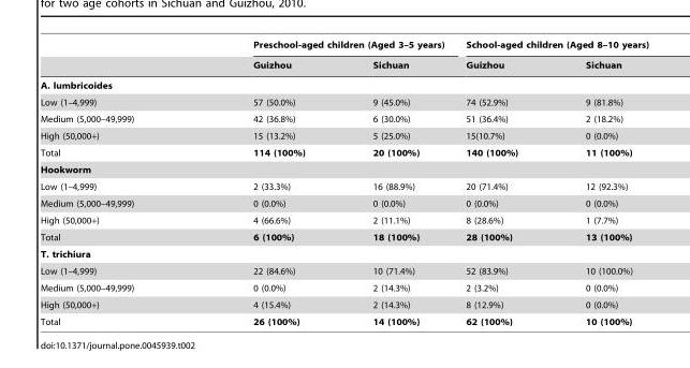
<table><thead><tr><td rowspan="2"></td><td colspan="2">Preschool-aged children (Aged 3–5 years)</td><td colspan="2">School-aged children (Aged 8–10 years)</td></tr><tr><td>Guizhou</td><td>Sichuan</td><td>Guizhou</td><td>Sichuan</td></tr></thead><tbody><tr><td colspan="5">A. lumbricoides</td></tr><tr><td>Low (1–4,999)</td><td>57 (50.0%)</td><td>9 (45.0%)</td><td>74 (52.9%)</td><td>9 (81.8%)</td></tr><tr><td>Medium (5,000–49,999)</td><td>42 (36.8%)</td><td>6 (30.0%)</td><td>51 (36.4%)</td><td>2 (18.2%)</td></tr><tr><td>High (50,000+)</td><td>15 (13.2%)</td><td>5 (25.0%)</td><td>15(10.7%)</td><td>0 (0.0%)</td></tr><tr><td>Total</td><td>114 (100%)</td><td>20 (100%)</td><td>140 (100%)</td><td>11 (100%)</td></tr><tr><td colspan="5">Hookworm</td></tr><tr><td>Low (1–4,999)</td><td>2 (33.3%)</td><td>16 (88.9%)</td><td>20 (71.4%)</td><td>12 (92.3%)</td></tr><tr><td>Medium (5,000–49,999)</td><td>0 (0.0%)</td><td>0 (0.0%)</td><td>0 (0.0%)</td><td>0 (0.0%)</td></tr><tr><td>High (50,000+)</td><td>4 (66.6%)</td><td>2 (11.1%)</td><td>8 (28.6%)</td><td>1 (7.7%)</td></tr><tr><td>Total</td><td>6 (100%)</td><td>18 (100%)</td><td>28 (100%)</td><td>13 (100%)</td></tr><tr><td colspan="5">T. trichiura</td></tr><tr><td>Low (1–4,999)</td><td>22 (84.6%)</td><td>10 (71.4%)</td><td>52 (83.9%)</td><td>10 (100.0%)</td></tr><tr><td>Medium (5,000–49,999)</td><td>0 (0.0%)</td><td>2 (14.3%)</td><td>2 (3.2%)</td><td>0 (0.0%)</td></tr><tr><td>High (50,000+)</td><td>4 (15.4%)</td><td>2 (14.3%)</td><td>8 (12.9%)</td><td>0 (0.0%)</td></tr><tr><td>Total</td><td>26 (100%)</td><td>14 (100%)</td><td>62 (100%)</td><td>10 (100%)</td></tr></tbody></table>